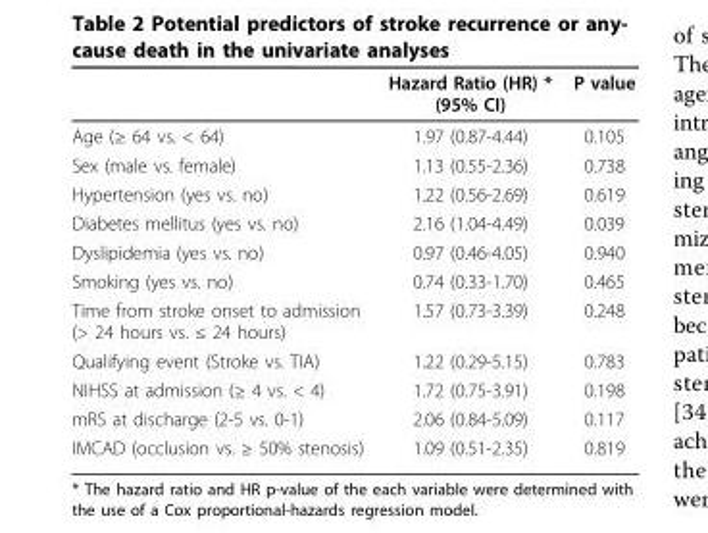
<table><thead><tr><td></td><td>Hazard Ratio (HR) * (95% CI)</td><td>P value</td></tr></thead><tbody><tr><td>Age (≥ 64 vs. &lt; 64)</td><td>1.97 (0.87-4.44)</td><td>0.105</td></tr><tr><td>Sex (male vs. female)</td><td>1.13 (0.55-2.36)</td><td>0.738</td></tr><tr><td>Hypertension (yes vs. no)</td><td>1.22 (0.56-2.69)</td><td>0.619</td></tr><tr><td>Diabetes mellitus (yes vs. no)</td><td>2.16 (1.04-4.49)</td><td>0.039</td></tr><tr><td>Dyslipidemia (yes vs. no)</td><td>0.97 (0.46-4.05)</td><td>0.940</td></tr><tr><td>Smoking (yes vs. no)</td><td>0.74 (0.33-1.70)</td><td>0.465</td></tr><tr><td>Time from stroke onset to admission (&gt; 24 hours vs. ≤ 24 hours)</td><td>1.57 (0.73-3.39)</td><td>0.248</td></tr><tr><td>Qualifying event (Stroke vs. TIA)</td><td>1.22 (0.29-5.15)</td><td>0.783</td></tr><tr><td>NIHSS at admission (≥ 4 vs. &lt; 4)</td><td>1.72 (0.75-3.91)</td><td>0.198</td></tr><tr><td>mRS at discharge (2-5 vs. 0-1)</td><td>2.06 (0.84-5.09)</td><td>0.117</td></tr><tr><td>IMCAD (occlusion vs. ≥ 50% stenosis)</td><td>1.09 (0.51-2.35)</td><td>0.819</td></tr></tbody></table>